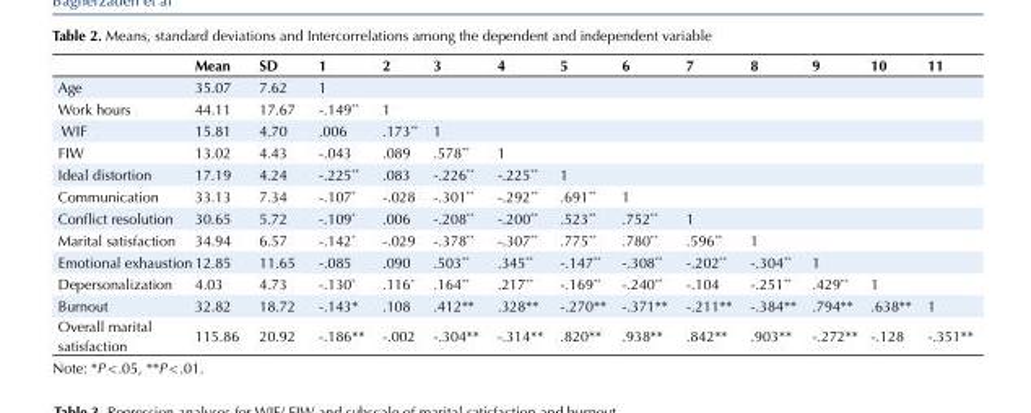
<table><thead><tr><td></td><td>Mean</td><td>SD</td><td>1</td><td>2</td><td>3</td><td>4</td><td>5</td><td>6</td><td>7</td><td>8</td><td>9</td><td>10</td><td>11</td></tr></thead><tbody><tr><td>Age</td><td>35.07</td><td>7.62</td><td>1</td><td></td><td></td><td></td><td></td><td></td><td></td><td></td><td></td><td></td><td></td></tr><tr><td>Work hours</td><td>44.11</td><td>17.67</td><td>-.149**</td><td>1</td><td></td><td></td><td></td><td></td><td></td><td></td><td></td><td></td><td></td></tr><tr><td>WIF</td><td>15.81</td><td>4.70</td><td>.006</td><td>.173**</td><td>1</td><td></td><td></td><td></td><td></td><td></td><td></td><td></td><td></td></tr><tr><td>FIW</td><td>13.02</td><td>4.43</td><td>-.043</td><td>.089</td><td>.578**</td><td>1</td><td></td><td></td><td></td><td></td><td></td><td></td><td></td></tr><tr><td>Ideal distortion</td><td>17.19</td><td>4.24</td><td>-.225**</td><td>.083</td><td>-.226**</td><td>-.225**</td><td>1</td><td></td><td></td><td></td><td></td><td></td><td></td></tr><tr><td>Communication</td><td>33.13</td><td>7.34</td><td>-.107*</td><td>-.028</td><td>-.301**</td><td>-.292**</td><td>.691**</td><td>1</td><td></td><td></td><td></td><td></td><td></td></tr><tr><td>Conflict resolution</td><td>30.65</td><td>5.72</td><td>-.109*</td><td>.006</td><td>-.208**</td><td>-.200**</td><td>.523**</td><td>.752**</td><td>1</td><td></td><td></td><td></td><td></td></tr><tr><td>Marital satisfaction</td><td>34.94</td><td>6.57</td><td>-.142*</td><td>-.029</td><td>-.378**</td><td>-.307**</td><td>.775**</td><td>.780**</td><td>.596**</td><td>1</td><td></td><td></td><td></td></tr><tr><td>Emotional exhaustion</td><td>12.85</td><td>11.65</td><td>-.085</td><td>.090</td><td>.503**</td><td>.345**</td><td>-.147**</td><td>-.308**</td><td>-.202**</td><td>-.304**</td><td>1</td><td></td><td></td></tr><tr><td>Depersonalization</td><td>4.03</td><td>4.73</td><td>-.130*</td><td>.116*</td><td>.164**</td><td>.217**</td><td>-.169**</td><td>-.240**</td><td>-.104</td><td>-.251**</td><td>.429**</td><td>1</td><td></td></tr><tr><td>Burnout</td><td>32.82</td><td>18.72</td><td>-.143*</td><td>.108</td><td>.412**</td><td>.328**</td><td>-.270**</td><td>-.371**</td><td>-.211**</td><td>-.384**</td><td>.794**</td><td>.638**</td><td>1</td></tr><tr><td>Overall marital satisfaction</td><td>115.86</td><td>20.92</td><td>-.186**</td><td>-.002</td><td>-.304**</td><td>-.314**</td><td>.820**</td><td>.938**</td><td>.842**</td><td>.903**</td><td>-.272**</td><td>-.128</td><td>-.351**</td></tr></tbody></table>